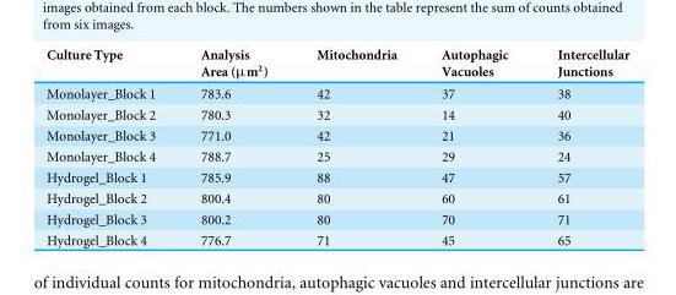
<table><thead><tr><td>Culture Type</td><td>Analysis Area (µm<sup>2</sup>)</td><td>Mitochondria</td><td>Autophagic Vacuoles</td><td>Intercellular Junctions</td></tr></thead><tbody><tr><td>Monolayer_Block 1</td><td>783.6</td><td>42</td><td>37</td><td>38</td></tr><tr><td>Monolayer_Block 2</td><td>780.3</td><td>32</td><td>14</td><td>40</td></tr><tr><td>Monolayer_Block 3</td><td>771.0</td><td>42</td><td>21</td><td>36</td></tr><tr><td>Monolayer_Block 4</td><td>788.7</td><td>25</td><td>29</td><td>24</td></tr><tr><td>Hydrogel_Block 1</td><td>785.9</td><td>88</td><td>47</td><td>57</td></tr><tr><td>Hydrogel_Block 2</td><td>800.4</td><td>80</td><td>60</td><td>61</td></tr><tr><td>Hydrogel_Block 3</td><td>800.2</td><td>80</td><td>70</td><td>71</td></tr><tr><td>Hydrogel_Block 4</td><td>776.7</td><td>71</td><td>45</td><td>65</td></tr></tbody></table>